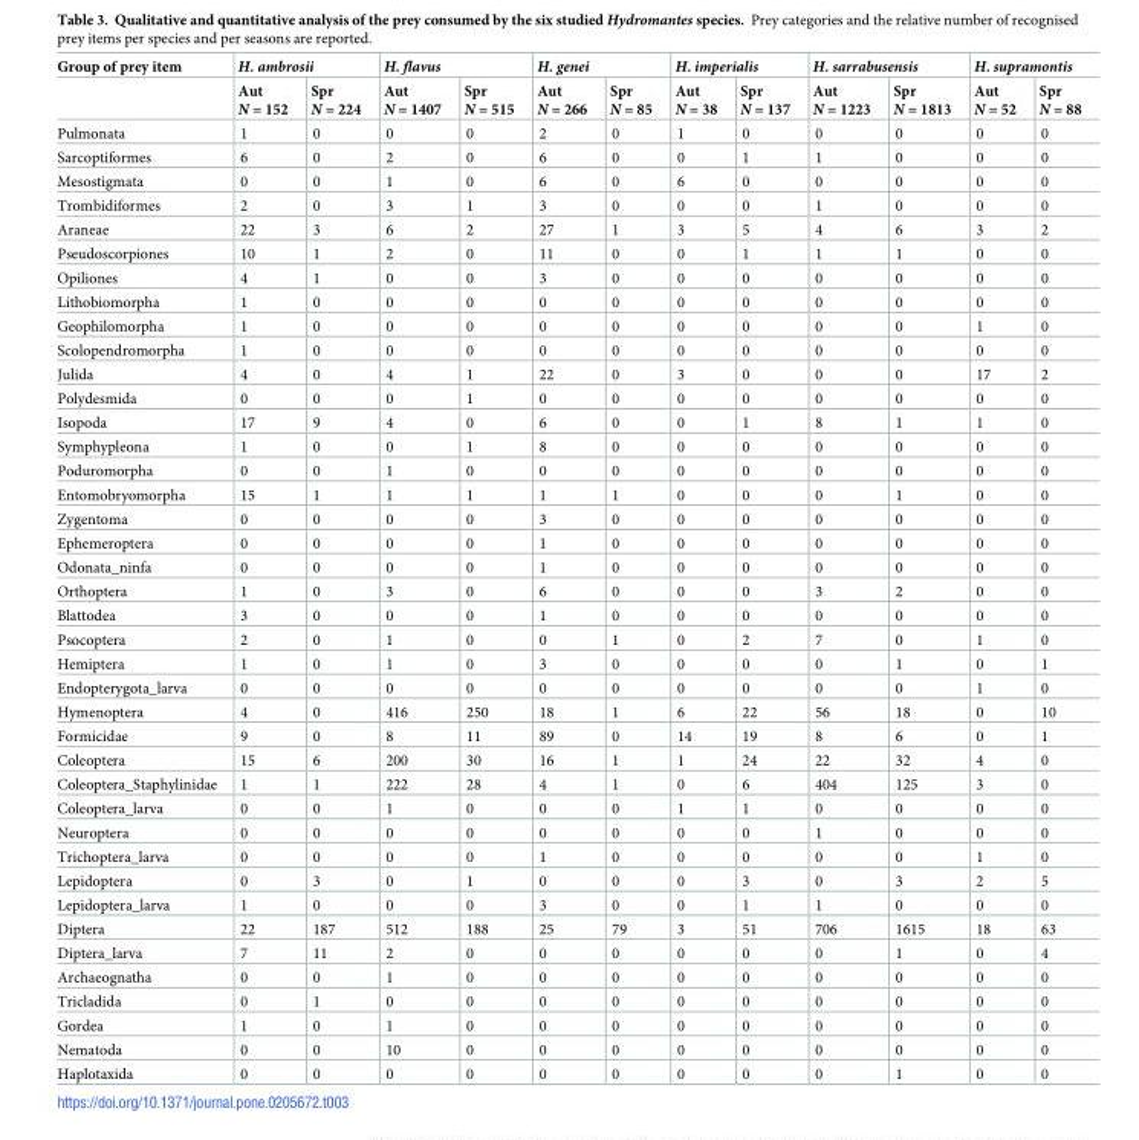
<table><thead><tr><td rowspan="2">Group of prey item</td><td colspan="2">H. ambrosii</td><td colspan="2">H. flavus</td><td colspan="2">H. genei</td><td colspan="2">H. imperialis</td><td colspan="2">H. sarrabusensis</td><td colspan="2">H. supramontis</td></tr><tr><td>Aut N = 152</td><td>Spr N = 224</td><td>Aut N = 1407</td><td>Spr N = 515</td><td>Aut N = 266</td><td>Spr N = 85</td><td>Aut N = 38</td><td>Spr N = 137</td><td>Aut N = 1223</td><td>Spr N = 1813</td><td>Aut N = 52</td><td>Spr N = 88</td></tr></thead><tbody><tr><td>Pulmonata</td><td>1</td><td>0</td><td>0</td><td>0</td><td>2</td><td>0</td><td>1</td><td>0</td><td>0</td><td>0</td><td>0</td><td>0</td></tr><tr><td>Sarcoptiformes</td><td>6</td><td>0</td><td>2</td><td>0</td><td>6</td><td>0</td><td>0</td><td>1</td><td>1</td><td>0</td><td>0</td><td>0</td></tr><tr><td>Mesostigmata</td><td>0</td><td>0</td><td>1</td><td>0</td><td>6</td><td>0</td><td>6</td><td>0</td><td>0</td><td>0</td><td>0</td><td>0</td></tr><tr><td>Trombidiformes</td><td>2</td><td>0</td><td>3</td><td>1</td><td>3</td><td>0</td><td>0</td><td>0</td><td>1</td><td>0</td><td>0</td><td>0</td></tr><tr><td>Araneae</td><td>22</td><td>3</td><td>6</td><td>2</td><td>27</td><td>1</td><td>3</td><td>5</td><td>4</td><td>6</td><td>3</td><td>2</td></tr><tr><td>Pseudoscorpiones</td><td>10</td><td>1</td><td>2</td><td>0</td><td>11</td><td>0</td><td>0</td><td>1</td><td>1</td><td>1</td><td>0</td><td>0</td></tr><tr><td>Opiliones</td><td>4</td><td>1</td><td>0</td><td>0</td><td>3</td><td>0</td><td>0</td><td>0</td><td>0</td><td>0</td><td>0</td><td>0</td></tr><tr><td>Lithobiomorpha</td><td>1</td><td>0</td><td>0</td><td>0</td><td>0</td><td>0</td><td>0</td><td>0</td><td>0</td><td>0</td><td>0</td><td>0</td></tr><tr><td>Geophilomorpha</td><td>1</td><td>0</td><td>0</td><td>0</td><td>0</td><td>0</td><td>0</td><td>0</td><td>0</td><td>0</td><td>1</td><td>0</td></tr><tr><td>Scolopendromorpha</td><td>1</td><td>0</td><td>0</td><td>0</td><td>0</td><td>0</td><td>0</td><td>0</td><td>0</td><td>0</td><td>0</td><td>0</td></tr><tr><td>Julida</td><td>4</td><td>0</td><td>4</td><td>1</td><td>22</td><td>0</td><td>3</td><td>0</td><td>0</td><td>0</td><td>17</td><td>2</td></tr><tr><td>Polydesmida</td><td>0</td><td>0</td><td>0</td><td>1</td><td>0</td><td>0</td><td>0</td><td>0</td><td>0</td><td>0</td><td>0</td><td>0</td></tr><tr><td>Isopoda</td><td>17</td><td>9</td><td>4</td><td>0</td><td>6</td><td>0</td><td>0</td><td>1</td><td>8</td><td>1</td><td>1</td><td>0</td></tr><tr><td>Symphypleona</td><td>1</td><td>0</td><td>0</td><td>1</td><td>8</td><td>0</td><td>0</td><td>0</td><td>0</td><td>0</td><td>0</td><td>0</td></tr><tr><td>Poduromorpha</td><td>0</td><td>0</td><td>1</td><td>0</td><td>0</td><td>0</td><td>0</td><td>0</td><td>0</td><td>0</td><td>0</td><td>0</td></tr><tr><td>Entomobryomorpha</td><td>15</td><td>1</td><td>1</td><td>1</td><td>1</td><td>1</td><td>0</td><td>0</td><td>0</td><td>1</td><td>0</td><td>0</td></tr><tr><td>Zygentoma</td><td>0</td><td>0</td><td>0</td><td>0</td><td>3</td><td>0</td><td>0</td><td>0</td><td>0</td><td>0</td><td>0</td><td>0</td></tr><tr><td>Ephemeroptera</td><td>0</td><td>0</td><td>0</td><td>0</td><td>1</td><td>0</td><td>0</td><td>0</td><td>0</td><td>0</td><td>0</td><td>0</td></tr><tr><td>Odonata_ninfa</td><td>0</td><td>0</td><td>0</td><td>0</td><td>1</td><td>0</td><td>0</td><td>0</td><td>0</td><td>0</td><td>0</td><td>0</td></tr><tr><td>Orthoptera</td><td>1</td><td>0</td><td>3</td><td>0</td><td>6</td><td>0</td><td>0</td><td>0</td><td>3</td><td>2</td><td>0</td><td>0</td></tr><tr><td>Blattodea</td><td>3</td><td>0</td><td>0</td><td>0</td><td>1</td><td>0</td><td>0</td><td>0</td><td>0</td><td>0</td><td>0</td><td>0</td></tr><tr><td>Psocoptera</td><td>2</td><td>0</td><td>1</td><td>0</td><td>0</td><td>1</td><td>0</td><td>2</td><td>7</td><td>0</td><td>1</td><td>0</td></tr><tr><td>Hemiptera</td><td>1</td><td>0</td><td>1</td><td>0</td><td>3</td><td>0</td><td>0</td><td>0</td><td>0</td><td>1</td><td>0</td><td>1</td></tr><tr><td>Endopterygota_larva</td><td>0</td><td>0</td><td>0</td><td>0</td><td>0</td><td>0</td><td>0</td><td>0</td><td>0</td><td>0</td><td>1</td><td>0</td></tr><tr><td>Hymenoptera</td><td>4</td><td>0</td><td>416</td><td>250</td><td>18</td><td>1</td><td>6</td><td>22</td><td>56</td><td>18</td><td>0</td><td>10</td></tr><tr><td>Formicidae</td><td>9</td><td>0</td><td>8</td><td>11</td><td>89</td><td>0</td><td>14</td><td>19</td><td>8</td><td>6</td><td>0</td><td>1</td></tr><tr><td>Coleoptera</td><td>15</td><td>6</td><td>200</td><td>30</td><td>16</td><td>1</td><td>1</td><td>24</td><td>22</td><td>32</td><td>4</td><td>0</td></tr><tr><td>Coleoptera_Staphylinidae</td><td>1</td><td>1</td><td>222</td><td>28</td><td>4</td><td>1</td><td>0</td><td>6</td><td>404</td><td>125</td><td>3</td><td>0</td></tr><tr><td>Coleoptera_larva</td><td>0</td><td>0</td><td>1</td><td>0</td><td>0</td><td>0</td><td>1</td><td>1</td><td>0</td><td>0</td><td>0</td><td>0</td></tr><tr><td>Neuroptera</td><td>0</td><td>0</td><td>0</td><td>0</td><td>0</td><td>0</td><td>0</td><td>0</td><td>1</td><td>0</td><td>0</td><td>0</td></tr><tr><td>Trichoptera_larva</td><td>0</td><td>0</td><td>0</td><td>0</td><td>1</td><td>0</td><td>0</td><td>0</td><td>0</td><td>0</td><td>1</td><td>0</td></tr><tr><td>Lepidoptera</td><td>0</td><td>3</td><td>0</td><td>1</td><td>0</td><td>0</td><td>0</td><td>3</td><td>0</td><td>3</td><td>2</td><td>5</td></tr><tr><td>Lepidoptera_larva</td><td>1</td><td>0</td><td>0</td><td>0</td><td>3</td><td>0</td><td>0</td><td>1</td><td>1</td><td>0</td><td>0</td><td>0</td></tr><tr><td>Diptera</td><td>22</td><td>187</td><td>512</td><td>188</td><td>25</td><td>79</td><td>3</td><td>51</td><td>706</td><td>1615</td><td>18</td><td>63</td></tr><tr><td>Diptera_larva</td><td>7</td><td>11</td><td>2</td><td>0</td><td>0</td><td>0</td><td>0</td><td>0</td><td>0</td><td>1</td><td>0</td><td>4</td></tr><tr><td>Archaeognatha</td><td>0</td><td>0</td><td>1</td><td>0</td><td>0</td><td>0</td><td>0</td><td>0</td><td>0</td><td>0</td><td>0</td><td>0</td></tr><tr><td>Tricladida</td><td>0</td><td>1</td><td>0</td><td>0</td><td>0</td><td>0</td><td>0</td><td>0</td><td>0</td><td>0</td><td>0</td><td>0</td></tr><tr><td>Gordea</td><td>1</td><td>0</td><td>1</td><td>0</td><td>0</td><td>0</td><td>0</td><td>0</td><td>0</td><td>0</td><td>0</td><td>0</td></tr><tr><td>Nematoda</td><td>0</td><td>0</td><td>10</td><td>0</td><td>0</td><td>0</td><td>0</td><td>0</td><td>0</td><td>0</td><td>0</td><td>0</td></tr><tr><td>Haplotaxida</td><td>0</td><td>0</td><td>0</td><td>0</td><td>0</td><td>0</td><td>0</td><td>0</td><td>0</td><td>1</td><td>0</td><td>0</td></tr></tbody></table>